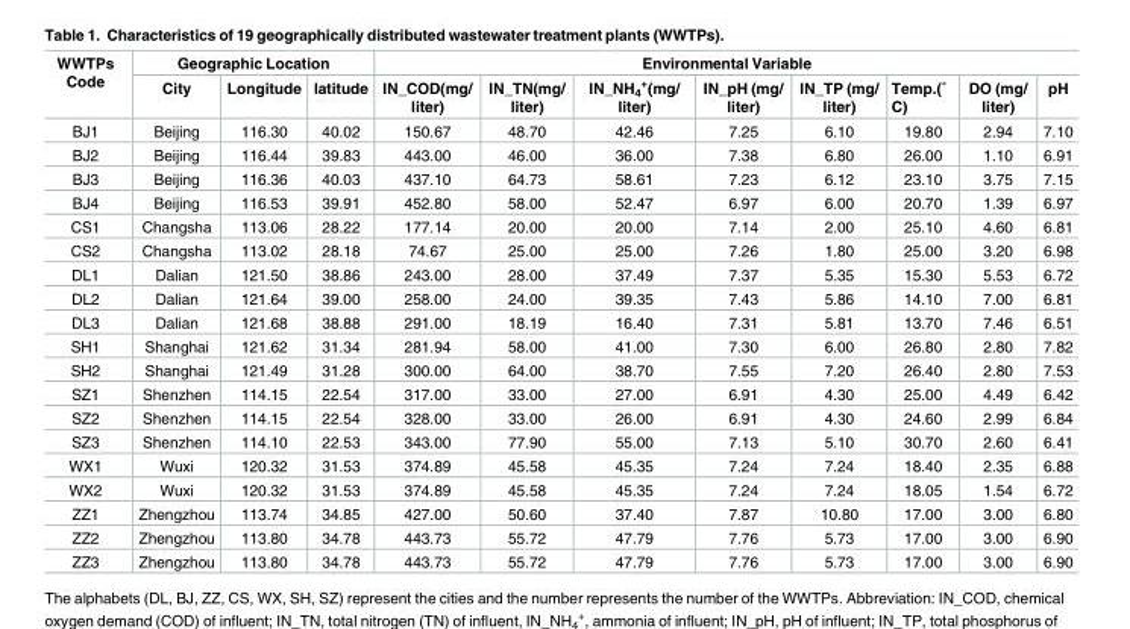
<table><thead><tr><td rowspan="2">WWTPs Code</td><td colspan="3">Geographic Location</td><td colspan="8">Environmental Variable</td></tr><tr><td>City</td><td>Longitude</td><td>latitude</td><td>IN_COD(mg/ liter)</td><td>IN_TN(mg/ liter)</td><td>IN_NH<sub>4</sub> <sup>+</sup>(mg/ liter)</td><td>IN_pH (mg/ liter)</td><td>IN_TP (mg/ liter)</td><td>Temp.(˚ C)</td><td>DO (mg/ liter)</td><td>pH</td></tr></thead><tbody><tr><td>BJ1</td><td>Beijing</td><td>116.30</td><td>40.02</td><td>150.67</td><td>48.70</td><td>42.46</td><td>7.25</td><td>6.10</td><td>19.80</td><td>2.94</td><td>7.10</td></tr><tr><td>BJ2</td><td>Beijing</td><td>116.44</td><td>39.83</td><td>443.00</td><td>46.00</td><td>36.00</td><td>7.38</td><td>6.80</td><td>26.00</td><td>1.10</td><td>6.91</td></tr><tr><td>BJ3</td><td>Beijing</td><td>116.36</td><td>40.03</td><td>437.10</td><td>64.73</td><td>58.61</td><td>7.23</td><td>6.12</td><td>23.10</td><td>3.75</td><td>7.15</td></tr><tr><td>BJ4</td><td>Beijing</td><td>116.53</td><td>39.91</td><td>452.80</td><td>58.00</td><td>52.47</td><td>6.97</td><td>6.00</td><td>20.70</td><td>1.39</td><td>6.97</td></tr><tr><td>CS1</td><td>Changsha</td><td>113.06</td><td>28.22</td><td>177.14</td><td>20.00</td><td>20.00</td><td>7.14</td><td>2.00</td><td>25.10</td><td>4.60</td><td>6.81</td></tr><tr><td>CS2</td><td>Changsha</td><td>113.02</td><td>28.18</td><td>74.67</td><td>25.00</td><td>25.00</td><td>7.26</td><td>1.80</td><td>25.00</td><td>3.20</td><td>6.98</td></tr><tr><td>DL1</td><td>Dalian</td><td>121.50</td><td>38.86</td><td>243.00</td><td>28.00</td><td>37.49</td><td>7.37</td><td>5.35</td><td>15.30</td><td>5.53</td><td>6.72</td></tr><tr><td>DL2</td><td>Dalian</td><td>121.64</td><td>39.00</td><td>258.00</td><td>24.00</td><td>39.35</td><td>7.43</td><td>5.86</td><td>14.10</td><td>7.00</td><td>6.81</td></tr><tr><td>DL3</td><td>Dalian</td><td>121.68</td><td>38.88</td><td>291.00</td><td>18.19</td><td>16.40</td><td>7.31</td><td>5.81</td><td>13.70</td><td>7.46</td><td>6.51</td></tr><tr><td>SH1</td><td>Shanghai</td><td>121.62</td><td>31.34</td><td>281.94</td><td>58.00</td><td>41.00</td><td>7.30</td><td>6.00</td><td>26.80</td><td>2.80</td><td>7.82</td></tr><tr><td>SH2</td><td>Shanghai</td><td>121.49</td><td>31.28</td><td>300.00</td><td>64.00</td><td>38.70</td><td>7.55</td><td>7.20</td><td>26.40</td><td>2.80</td><td>7.53</td></tr><tr><td>SZ1</td><td>Shenzhen</td><td>114.15</td><td>22.54</td><td>317.00</td><td>33.00</td><td>27.00</td><td>6.91</td><td>4.30</td><td>25.00</td><td>4.49</td><td>6.42</td></tr><tr><td>SZ2</td><td>Shenzhen</td><td>114.15</td><td>22.54</td><td>328.00</td><td>33.00</td><td>26.00</td><td>6.91</td><td>4.30</td><td>24.60</td><td>2.99</td><td>6.84</td></tr><tr><td>SZ3</td><td>Shenzhen</td><td>114.10</td><td>22.53</td><td>343.00</td><td>77.90</td><td>55.00</td><td>7.13</td><td>5.10</td><td>30.70</td><td>2.60</td><td>6.41</td></tr><tr><td>WX1</td><td>Wuxi</td><td>120.32</td><td>31.53</td><td>374.89</td><td>45.58</td><td>45.35</td><td>7.24</td><td>7.24</td><td>18.40</td><td>2.35</td><td>6.88</td></tr><tr><td>WX2</td><td>Wuxi</td><td>120.32</td><td>31.53</td><td>374.89</td><td>45.58</td><td>45.35</td><td>7.24</td><td>7.24</td><td>18.05</td><td>1.54</td><td>6.72</td></tr><tr><td>ZZ1</td><td>Zhengzhou</td><td>113.74</td><td>34.85</td><td>427.00</td><td>50.60</td><td>37.40</td><td>7.87</td><td>10.80</td><td>17.00</td><td>3.00</td><td>6.80</td></tr><tr><td>ZZ2</td><td>Zhengzhou</td><td>113.80</td><td>34.78</td><td>443.73</td><td>55.72</td><td>47.79</td><td>7.76</td><td>5.73</td><td>17.00</td><td>3.00</td><td>6.90</td></tr><tr><td>ZZ3</td><td>Zhengzhou</td><td>113.80</td><td>34.78</td><td>443.73</td><td>55.72</td><td>47.79</td><td>7.76</td><td>5.73</td><td>17.00</td><td>3.00</td><td>6.90</td></tr></tbody></table>